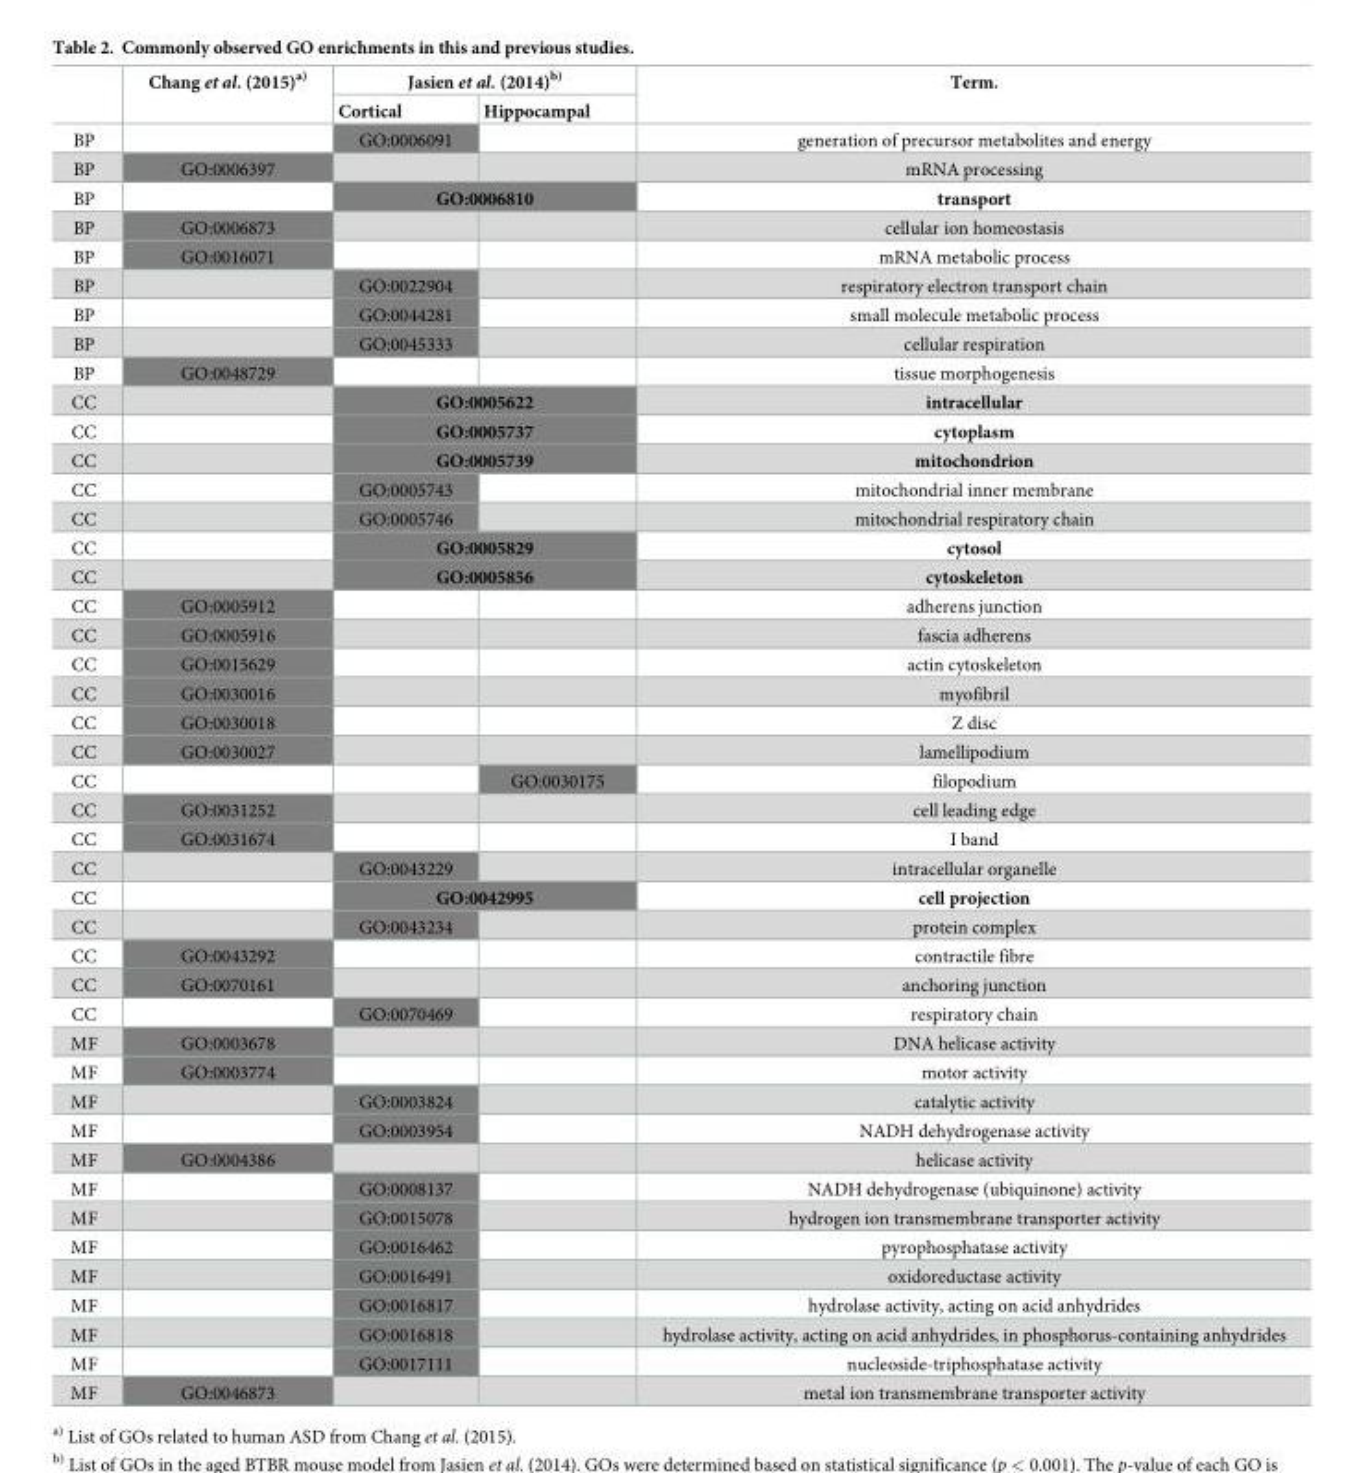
<table><thead><tr><td rowspan="2"></td><td rowspan="2">Chang et al. (2015)<sup>a)</sup></td><td colspan="2">Jasien et al. (2014)<sup>b)</sup></td><td rowspan="2">Term.</td></tr><tr><td>Cortical</td><td>Hippocampal</td></tr></thead><tbody><tr><td>BP</td><td></td><td>GO:0006091</td><td></td><td>generation of precursor metabolites and energy</td></tr><tr><td>BP</td><td>GO:0006397</td><td></td><td></td><td>mRNA processing</td></tr><tr><td>BP</td><td></td><td colspan="2">GO:0006810</td><td>transport</td></tr><tr><td>BP</td><td>GO:0006873</td><td></td><td></td><td>cellular ion homeostasis</td></tr><tr><td>BP</td><td>GO:0016071</td><td></td><td></td><td>mRNA metabolic process</td></tr><tr><td>BP</td><td></td><td>GO:0022904</td><td></td><td>respiratory electron transport chain</td></tr><tr><td>BP</td><td></td><td>GO:0044281</td><td></td><td>small molecule metabolic process</td></tr><tr><td>BP</td><td></td><td>GO:0045333</td><td></td><td>cellular respiration</td></tr><tr><td>BP</td><td>GO:0048729</td><td></td><td></td><td>tissue morphogenesis</td></tr><tr><td>CC</td><td></td><td colspan="2">GO:0005622</td><td>intracellular</td></tr><tr><td>CC</td><td></td><td colspan="2">GO:0005737</td><td>cytoplasm</td></tr><tr><td>CC</td><td></td><td colspan="2">GO:0005739</td><td>mitochondrion</td></tr><tr><td>CC</td><td></td><td>GO:0005743</td><td></td><td>mitochondrial inner membrane</td></tr><tr><td>CC</td><td></td><td>GO:0005746</td><td></td><td>mitochondrial respiratory chain</td></tr><tr><td>CC</td><td></td><td colspan="2">GO:0005829</td><td>cytosol</td></tr><tr><td>CC</td><td></td><td colspan="2">GO:0005856</td><td>cytoskeleton</td></tr><tr><td>CC</td><td>GO:0005912</td><td></td><td></td><td>adherens junction</td></tr><tr><td>CC</td><td>GO:0005916</td><td></td><td></td><td>fascia adherens</td></tr><tr><td>CC</td><td>GO:0015629</td><td></td><td></td><td>actin cytoskeleton</td></tr><tr><td>CC</td><td>GO:0030016</td><td></td><td></td><td>myofibril</td></tr><tr><td>CC</td><td>GO:0030018</td><td></td><td></td><td>Z disc</td></tr><tr><td>CC</td><td>GO:0030027</td><td></td><td></td><td>lamellipodium</td></tr><tr><td>CC</td><td></td><td></td><td>GO:0030175</td><td>filopodium</td></tr><tr><td>CC</td><td>GO:0031252</td><td></td><td></td><td>cell leading edge</td></tr><tr><td>CC</td><td>GO:0031674</td><td></td><td></td><td>I band</td></tr><tr><td>CC</td><td></td><td>GO:0043229</td><td></td><td>intracellular organelle</td></tr><tr><td>CC</td><td></td><td colspan="2">GO:0042995</td><td>cell projection</td></tr><tr><td>CC</td><td></td><td>GO:0043234</td><td></td><td>protein complex</td></tr><tr><td>CC</td><td>GO:0043292</td><td></td><td></td><td>contractile fibre</td></tr><tr><td>CC</td><td>GO:0070161</td><td></td><td></td><td>anchoring junction</td></tr><tr><td>CC</td><td></td><td>GO:0070469</td><td></td><td>respiratory chain</td></tr><tr><td>MF</td><td>GO:0003678</td><td></td><td></td><td>DNA helicase activity</td></tr><tr><td>MF</td><td>GO:0003774</td><td></td><td></td><td>motor activity</td></tr><tr><td>MF</td><td></td><td>GO:0003824</td><td></td><td>catalytic activity</td></tr><tr><td>MF</td><td></td><td>GO:0003954</td><td></td><td>NADH dehydrogenase activity</td></tr><tr><td>MF</td><td>GO:0004386</td><td></td><td></td><td>helicase activity</td></tr><tr><td>MF</td><td></td><td>GO:0008137</td><td></td><td>NADH dehydrogenase (ubiquinone) activity</td></tr><tr><td>MF</td><td></td><td>GO:0015078</td><td></td><td>hydrogen ion transmembrane transporter activity</td></tr><tr><td>MF</td><td></td><td>GO:0016462</td><td></td><td>pyrophosphatase activity</td></tr><tr><td>MF</td><td></td><td>GO:0016491</td><td></td><td>oxidoreductase activity</td></tr><tr><td>MF</td><td></td><td>GO:0016817</td><td></td><td>hydrolase activity, acting on acid anhydrides</td></tr><tr><td>MF</td><td></td><td>GO:0016818</td><td></td><td>hydrolase activity, acting on acid anhydrides, in phosphorus-containing anhydrides</td></tr><tr><td>MF</td><td></td><td>GO:0017111</td><td></td><td>nucleoside-triphosphatase activity</td></tr><tr><td>MF</td><td>GO:0046873</td><td></td><td></td><td>metal ion transmembrane transporter activity</td></tr></tbody></table>